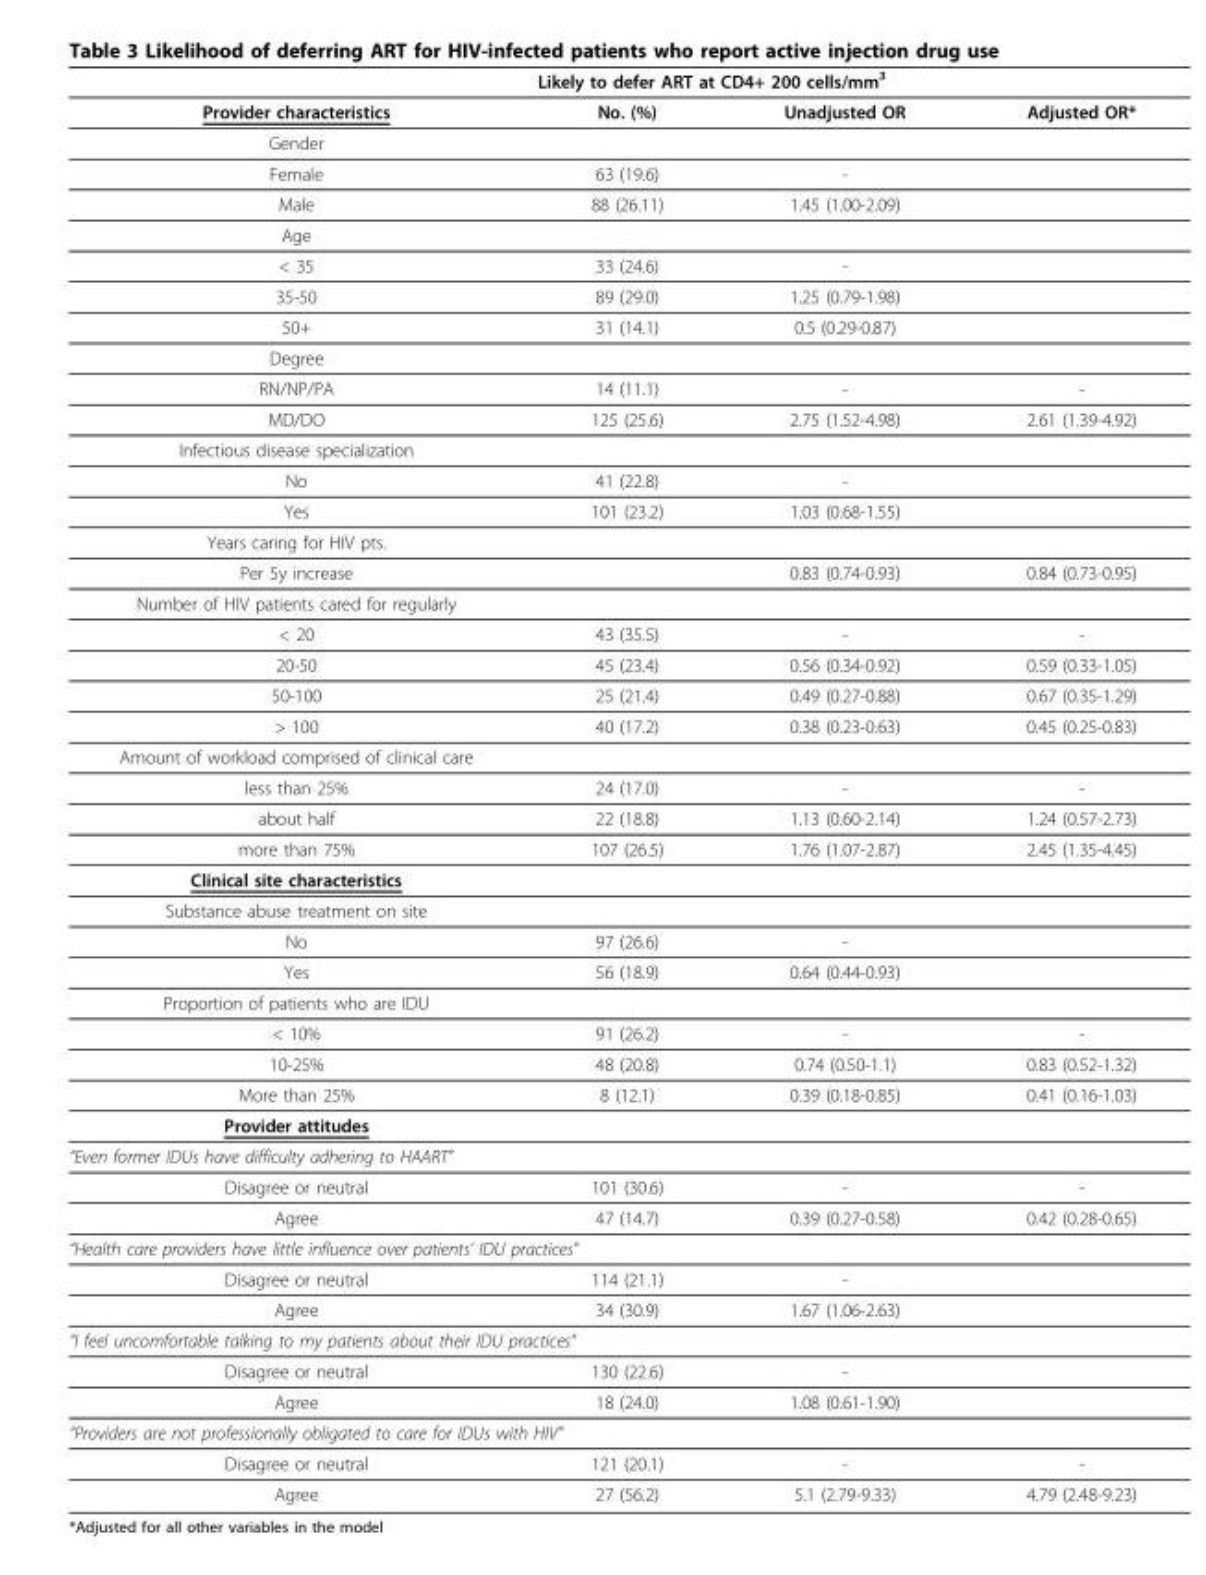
<table><thead><tr><td rowspan="2">Provider characteristics</td><td colspan="3">Likely to defer ART at CD4+ 200 cells/mm<sup>3</sup></td></tr><tr><td>No. (%)</td><td>Unadjusted OR</td><td>Adjusted OR*</td></tr></thead><tbody><tr><td colspan="4">Gender</td></tr><tr><td>Female</td><td>63 (19.6)</td><td>-</td><td></td></tr><tr><td>Male</td><td>88 (26.11)</td><td>1.45 (1.00-2.09)</td><td></td></tr><tr><td colspan="4">Age</td></tr><tr><td>&lt; 35</td><td>33 (24.6)</td><td>-</td><td></td></tr><tr><td>35-50</td><td>89 (29.0)</td><td>1.25 (0.79-1.98)</td><td></td></tr><tr><td>50+</td><td>31 (14.1)</td><td>0.5 (0.29-0.87)</td><td></td></tr><tr><td colspan="4">Degree</td></tr><tr><td>RN/NP/PA</td><td>14 (11.1)</td><td>-</td><td>-</td></tr><tr><td>MD/DO</td><td>125 (25.6)</td><td>2.75 (1.52-4.98)</td><td>2.61 (1.39-4.92)</td></tr><tr><td colspan="4">Infectious disease specialization</td></tr><tr><td>No</td><td>41 (22.8)</td><td>-</td><td></td></tr><tr><td>Yes</td><td>101 (23.2)</td><td>1.03 (0.68-1.55)</td><td></td></tr><tr><td colspan="4">Years caring for HIV pts.</td></tr><tr><td>Per 5y increase</td><td></td><td>0.83 (0.74-0.93)</td><td>0.84 (0.73-0.95)</td></tr><tr><td colspan="4">Number of HIV patients cared for regularly</td></tr><tr><td>&lt; 20</td><td>43 (35.5)</td><td>-</td><td>-</td></tr><tr><td>20-50</td><td>45 (23.4)</td><td>0.56 (0.34-0.92)</td><td>0.59 (0.33-1.05)</td></tr><tr><td>50-100</td><td>25 (21.4)</td><td>0.49 (0.27-0.88)</td><td>0.67 (0.35-1.29)</td></tr><tr><td>&gt; 100</td><td>40 (17.2)</td><td>0.38 (0.23-0.63)</td><td>0.45 (0.25-0.83)</td></tr><tr><td colspan="4">Amount of workload comprised of clinical care</td></tr><tr><td>less than 25%</td><td>24 (17.0)</td><td>-</td><td>-</td></tr><tr><td>about half</td><td>22 (18.8)</td><td>1.13 (0.60-2.14)</td><td>1.24 (0.57-2.73)</td></tr><tr><td>more than 75%</td><td>107 (26.5)</td><td>1.76 (1.07-2.87)</td><td>2.45 (1.35-4.45)</td></tr><tr><td colspan="4">Clinical site characteristics</td></tr><tr><td colspan="4">Substance abuse treatment on site</td></tr><tr><td>No</td><td>97 (26.6)</td><td>-</td><td></td></tr><tr><td>Yes</td><td>56 (18.9)</td><td>0.64 (0.44-0.93)</td><td></td></tr><tr><td colspan="4">Proportion of patients who are IDU</td></tr><tr><td>&lt; 10%</td><td>91 (26.2)</td><td>-</td><td>-</td></tr><tr><td>10-25%</td><td>48 (20.8)</td><td>0.74 (0.50-1.1)</td><td>0.83 (0.52-1.32)</td></tr><tr><td>More than 25%</td><td>8 (12.1)</td><td>0.39 (0.18-0.85)</td><td>0.41 (0.16-1.03)</td></tr><tr><td colspan="4">Provider attitudes</td></tr><tr><td colspan="4">“Even former IDUs have difficulty adhering to HAART”</td></tr><tr><td>Disagree or neutral</td><td>101 (30.6)</td><td>-</td><td>-</td></tr><tr><td>Agree</td><td>47 (14.7)</td><td>0.39 (0.27-0.58)</td><td>0.42 (0.28-0.65)</td></tr><tr><td colspan="4">“Health care providers have little influence over patients’ IDU practices”</td></tr><tr><td>Disagree or neutral</td><td>114 (21.1)</td><td>-</td><td></td></tr><tr><td>Agree</td><td>34 (30.9)</td><td>1.67 (1.06-2.63)</td><td></td></tr><tr><td colspan="4">“I feel uncomfortable talking to my patients about their IDU practices”</td></tr><tr><td>Disagree or neutral</td><td>130 (22.6)</td><td>-</td><td></td></tr><tr><td>Agree</td><td>18 (24.0)</td><td>1.08 (0.61-1.90)</td><td></td></tr><tr><td colspan="4">“Providers are not professionally obligated to care for IDUs with HIV”</td></tr><tr><td>Disagree or neutral</td><td>121 (20.1)</td><td>-</td><td>-</td></tr><tr><td>Agree</td><td>27 (56.2)</td><td>5.1 (2.79-9.33)</td><td>4.79 (2.48-9.23)</td></tr></tbody></table>